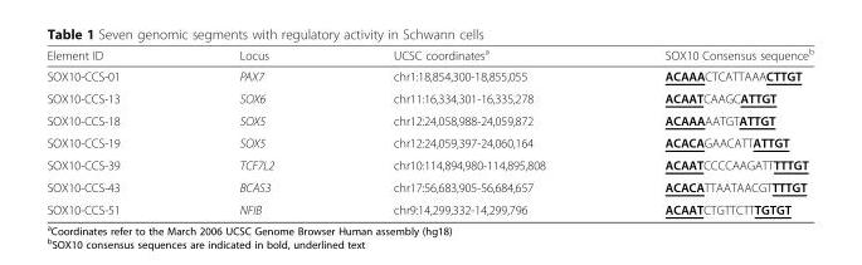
<table><thead><tr><td>Element ID</td><td>Locus</td><td>UCSC coordinates<sup>a</sup></td><td>SOX10 Consensus sequence<sup>b</sup></td></tr></thead><tbody><tr><td>SOX10-CCS-01</td><td>PAX7</td><td>chr1:18,854,300-18,855,055</td><td>ACAAACTCATTAAACTTGT</td></tr><tr><td>SOX10-CCS-13</td><td>SOX6</td><td>chr11:16,334,301-16,335,278</td><td>ACAATCAAGCATTGT</td></tr><tr><td>SOX10-CCS-18</td><td>SOX5</td><td>chr12:24,058,988-24,059,872</td><td>ACAAAAATGTATTGT</td></tr><tr><td>SOX10-CCS-19</td><td>SOX5</td><td>chr12:24,059,397-24,060,164</td><td>ACACAGAACATTATTGT</td></tr><tr><td>SOX10-CCS-39</td><td>TCF7L2</td><td>chr10:114,894,980-114,895,808</td><td>ACAATCCCCAAGATTTTTGT</td></tr><tr><td>SOX10-CCS-43</td><td>BCAS3</td><td>chr17:56,683,905-56,684,657</td><td>ACACATTAATAACGTTTTGT</td></tr><tr><td>SOX10-CCS-51</td><td>NFIB</td><td>chr9:14,299,332-14,299,796</td><td>ACAATCTGTTCTTTGTGT</td></tr></tbody></table>